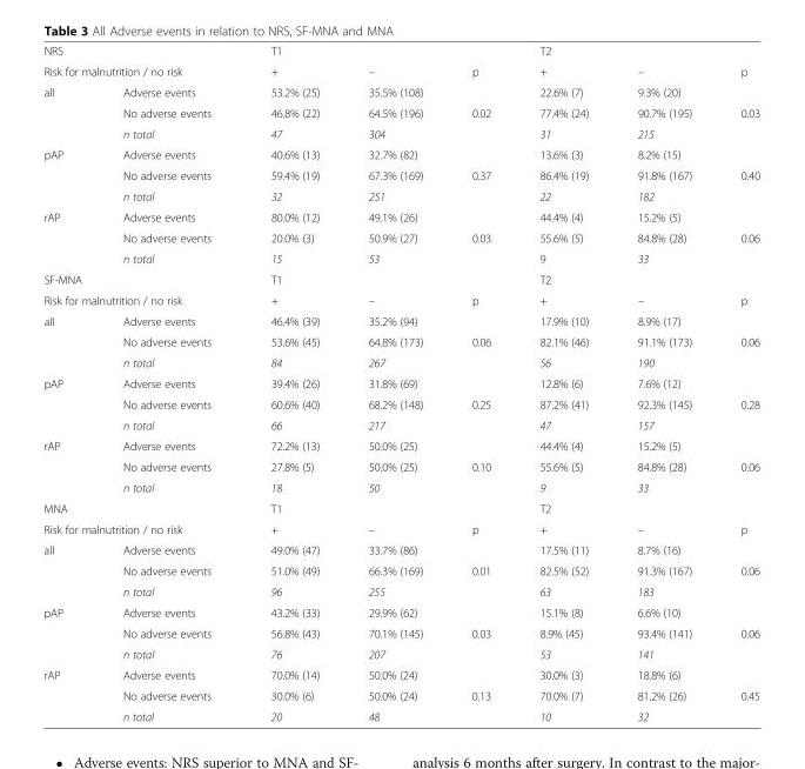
<table><tbody><tr><td colspan="2">NRS</td><td colspan="3">T1</td><td colspan="3">T2</td></tr><tr><td colspan="2">Risk for malnutrition / no risk</td><td>+</td><td>–</td><td>p</td><td>+</td><td>–</td><td>p</td></tr><tr><td rowspan="3">all</td><td>Adverse events</td><td>53.2% (25)</td><td>35.5% (108)</td><td></td><td>22.6% (7)</td><td>9.3% (20)</td><td></td></tr><tr><td>No adverse events</td><td>46.8% (22)</td><td>64.5% (196)</td><td>0.02</td><td>77.4% (24)</td><td>90.7% (195)</td><td>0.03</td></tr><tr><td>n total</td><td>47</td><td>304</td><td></td><td>31</td><td>215</td><td></td></tr><tr><td rowspan="3">pAP</td><td>Adverse events</td><td>40.6% (13)</td><td>32.7% (82)</td><td></td><td>13.6% (3)</td><td>8.2% (15)</td><td></td></tr><tr><td>No adverse events</td><td>59.4% (19)</td><td>67.3% (169)</td><td>0.37</td><td>86.4% (19)</td><td>91.8% (167)</td><td>0.40</td></tr><tr><td>n total</td><td>32</td><td>251</td><td></td><td>22</td><td>182</td><td></td></tr><tr><td rowspan="3">rAP</td><td>Adverse events</td><td>80.0% (12)</td><td>49.1% (26)</td><td></td><td>44.4% (4)</td><td>15.2% (5)</td><td></td></tr><tr><td>No adverse events</td><td>20.0% (3)</td><td>50.9% (27)</td><td>0.03</td><td>55.6% (5)</td><td>84.8% (28)</td><td>0.06</td></tr><tr><td>n total</td><td>15</td><td>53</td><td></td><td>9</td><td>33</td><td></td></tr><tr><td colspan="2">SF-MNA</td><td colspan="3">T1</td><td colspan="3">T2</td></tr><tr><td colspan="2">Risk for malnutrition / no risk</td><td>+</td><td>–</td><td>p</td><td>+</td><td>–</td><td>p</td></tr><tr><td rowspan="3">all</td><td>Adverse events</td><td>46.4% (39)</td><td>35.2% (94)</td><td></td><td>17.9% (10)</td><td>8.9% (17)</td><td></td></tr><tr><td>No adverse events</td><td>53.6% (45)</td><td>64.8% (173)</td><td>0.06</td><td>82.1% (46)</td><td>91.1% (173)</td><td>0.06</td></tr><tr><td>n total</td><td>84</td><td>267</td><td></td><td>56</td><td>190</td><td></td></tr><tr><td rowspan="3">pAP</td><td>Adverse events</td><td>39.4% (26)</td><td>31.8% (69)</td><td></td><td>12.8% (6)</td><td>7.6% (12)</td><td></td></tr><tr><td>No adverse events</td><td>60.6% (40)</td><td>68.2% (148)</td><td>0.25</td><td>87.2% (41)</td><td>92.3% (145)</td><td>0.28</td></tr><tr><td>n total</td><td>66</td><td>217</td><td></td><td>47</td><td>157</td><td></td></tr><tr><td rowspan="3">rAP</td><td>Adverse events</td><td>72.2% (13)</td><td>50.0% (25)</td><td></td><td>44.4% (4)</td><td>15.2% (5)</td><td></td></tr><tr><td>No adverse events</td><td>27.8% (5)</td><td>50.0% (25)</td><td>0.10</td><td>55.6% (5)</td><td>84.8% (28)</td><td>0.06</td></tr><tr><td>n total</td><td>18</td><td>50</td><td></td><td>9</td><td>33</td><td></td></tr><tr><td colspan="2">MNA</td><td colspan="3">T1</td><td colspan="3">T2</td></tr><tr><td colspan="2">Risk for malnutrition / no risk</td><td>+</td><td>–</td><td>p</td><td>+</td><td>–</td><td>p</td></tr><tr><td rowspan="3">all</td><td>Adverse events</td><td>49.0% (47)</td><td>33.7% (86)</td><td></td><td>17.5% (11)</td><td>8.7% (16)</td><td></td></tr><tr><td>No adverse events</td><td>51.0% (49)</td><td>66.3% (169)</td><td>0.01</td><td>82.5% (52)</td><td>91.3% (167)</td><td>0.06</td></tr><tr><td>n total</td><td>96</td><td>255</td><td></td><td>63</td><td>183</td><td></td></tr><tr><td rowspan="3">pAP</td><td>Adverse events</td><td>43.2% (33)</td><td>29.9% (62)</td><td></td><td>15.1% (8)</td><td>6.6% (10)</td><td></td></tr><tr><td>No adverse events</td><td>56.8% (43)</td><td>70.1% (145)</td><td>0.03</td><td>8.9% (45)</td><td>93.4% (141)</td><td>0.06</td></tr><tr><td>n total</td><td>76</td><td>207</td><td></td><td>53</td><td>141</td><td></td></tr><tr><td rowspan="3">rAP</td><td>Adverse events</td><td>70.0% (14)</td><td>50.0% (24)</td><td></td><td>30.0% (3)</td><td>18.8% (6)</td><td></td></tr><tr><td>No adverse events</td><td>30.0% (6)</td><td>50.0% (24)</td><td>0.13</td><td>70.0% (7)</td><td>81.2% (26)</td><td>0.45</td></tr><tr><td>n total</td><td>20</td><td>48</td><td></td><td>10</td><td>32</td><td></td></tr></tbody></table>